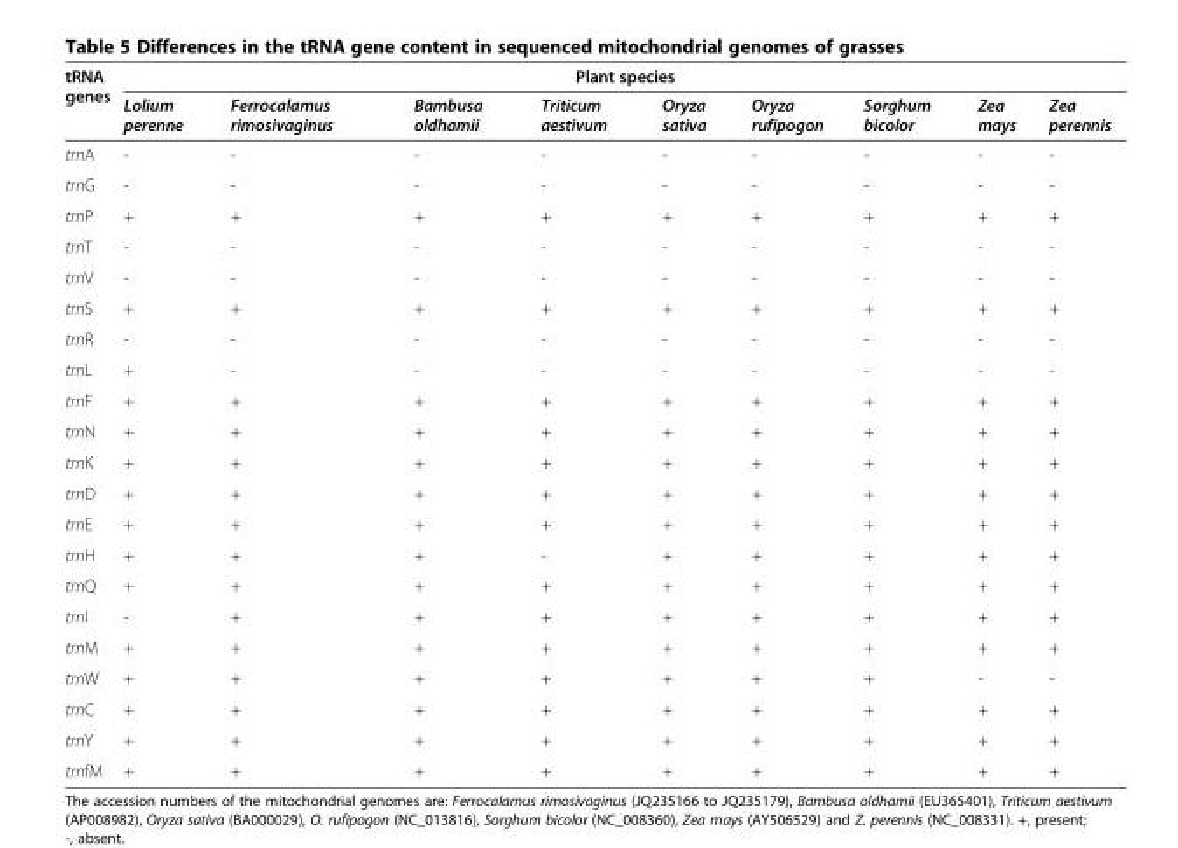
<table><thead><tr><td rowspan="2">tRNA genes</td><td colspan="9">Plant species</td></tr><tr><td>Lolium perenne</td><td>Ferrocalamus rimosivaginus</td><td>Bambusa oldhamii</td><td>Triticum aestivum</td><td>Oryza sativa</td><td>Oryza rufipogon</td><td>Sorghum bicolor</td><td>Zea mays</td><td>Zea perennis</td></tr></thead><tbody><tr><td>trnA</td><td>-</td><td>-</td><td>-</td><td>-</td><td>-</td><td>-</td><td>-</td><td>-</td><td>-</td></tr><tr><td>trnG</td><td>-</td><td>-</td><td>-</td><td>-</td><td>-</td><td>-</td><td>-</td><td>-</td><td>-</td></tr><tr><td>trnP</td><td>+</td><td>+</td><td>+</td><td>+</td><td>+</td><td>+</td><td>+</td><td>+</td><td>+</td></tr><tr><td>trnT</td><td>-</td><td>-</td><td>-</td><td>-</td><td>-</td><td>-</td><td>-</td><td>-</td><td>-</td></tr><tr><td>trnV</td><td>-</td><td>-</td><td>-</td><td>-</td><td>-</td><td>-</td><td>-</td><td>-</td><td>-</td></tr><tr><td>trnS</td><td>+</td><td>+</td><td>+</td><td>+</td><td>+</td><td>+</td><td>+</td><td>+</td><td>+</td></tr><tr><td>trnR</td><td>-</td><td>-</td><td>-</td><td>-</td><td>-</td><td>-</td><td>-</td><td>-</td><td>-</td></tr><tr><td>trnL</td><td>+</td><td>-</td><td>-</td><td>-</td><td>-</td><td>-</td><td>-</td><td>-</td><td>-</td></tr><tr><td>trnF</td><td>+</td><td>+</td><td>+</td><td>+</td><td>+</td><td>+</td><td>+</td><td>+</td><td>+</td></tr><tr><td>trnN</td><td>+</td><td>+</td><td>+</td><td>+</td><td>+</td><td>+</td><td>+</td><td>+</td><td>+</td></tr><tr><td>trnK</td><td>+</td><td>+</td><td>+</td><td>+</td><td>+</td><td>+</td><td>+</td><td>+</td><td>+</td></tr><tr><td>trnD</td><td>+</td><td>+</td><td>+</td><td>+</td><td>+</td><td>+</td><td>+</td><td>+</td><td>+</td></tr><tr><td>trnE</td><td>+</td><td>+</td><td>+</td><td>+</td><td>+</td><td>+</td><td>+</td><td>+</td><td>+</td></tr><tr><td>trnH</td><td>+</td><td>+</td><td>+</td><td>-</td><td>+</td><td>+</td><td>+</td><td>+</td><td>+</td></tr><tr><td>trnQ</td><td>+</td><td>+</td><td>+</td><td>+</td><td>+</td><td>+</td><td>+</td><td>+</td><td>+</td></tr><tr><td>trnI</td><td>-</td><td>+</td><td>+</td><td>+</td><td>+</td><td>+</td><td>+</td><td>+</td><td>+</td></tr><tr><td>trnM</td><td>+</td><td>+</td><td>+</td><td>+</td><td>+</td><td>+</td><td>+</td><td>+</td><td>+</td></tr><tr><td>trnW</td><td>+</td><td>+</td><td>+</td><td>+</td><td>+</td><td>+</td><td>+</td><td>-</td><td>-</td></tr><tr><td>trnC</td><td>+</td><td>+</td><td>+</td><td>+</td><td>+</td><td>+</td><td>+</td><td>+</td><td>+</td></tr><tr><td>trnY</td><td>+</td><td>+</td><td>+</td><td>+</td><td>+</td><td>+</td><td>+</td><td>+</td><td>+</td></tr><tr><td>trnfM</td><td>+</td><td>+</td><td>+</td><td>+</td><td>+</td><td>+</td><td>+</td><td>+</td><td>+</td></tr></tbody></table>